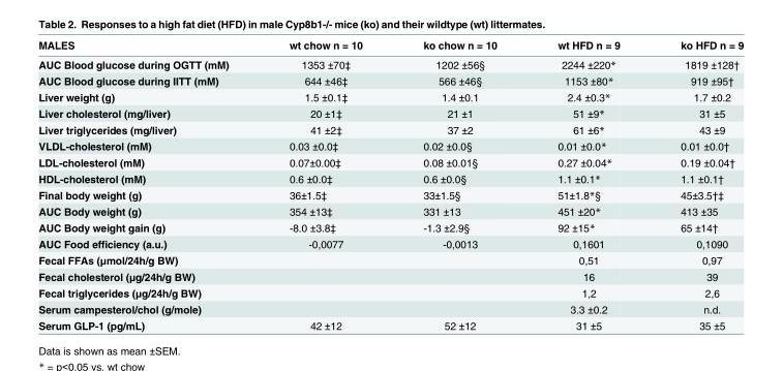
<table><thead><tr><td>MALES</td><td>wt chow n = 10</td><td>ko chow n = 10</td><td>wt HFD n = 9</td><td>ko HFD n = 9</td></tr></thead><tbody><tr><td>AUC Blood glucose during OGTT (mM)</td><td>1353 ±70‡</td><td>1202 ±56§</td><td>2244 ±220*</td><td>1819 ±128†</td></tr><tr><td>AUC Blood glucose during IITT (mM)</td><td>644 ±46‡</td><td>566 ±46§</td><td>1153 ±80*</td><td>919 ±95†</td></tr><tr><td>Liver weight (g)</td><td>1.5 ±0.1‡</td><td>1.4 ±0.1</td><td>2.4 ±0.3*</td><td>1.7 ±0.2</td></tr><tr><td>Liver cholesterol (mg/liver)</td><td>20 ±1‡</td><td>21 ±1</td><td>51 ±9*</td><td>31 ±5</td></tr><tr><td>Liver triglycerides (mg/liver)</td><td>41 ±2‡</td><td>37 ±2</td><td>61 ±6*</td><td>43 ±9</td></tr><tr><td>VLDL-cholesterol (mM)</td><td>0.03 ±0.0‡</td><td>0.02 ±0.0§</td><td>0.01 ±0.0*</td><td>0.01 ±0.0†</td></tr><tr><td>LDL-cholesterol (mM)</td><td>0.07±0.00‡</td><td>0.08 ±0.01§</td><td>0.27 ±0.04*</td><td>0.19 ±0.04†</td></tr><tr><td>HDL-cholesterol (mM)</td><td>0.6 ±0.0‡</td><td>0.6 ±0.0§</td><td>1.1 ±0.1*</td><td>1.1 ±0.1†</td></tr><tr><td>Final body weight (g)</td><td>36±1.5‡</td><td>33±1.5§</td><td>51±1.8*§</td><td>45±3.5†‡</td></tr><tr><td>AUC Body weight (g)</td><td>354 ±13‡</td><td>331 ±13</td><td>451 ±20*</td><td>413 ±35</td></tr><tr><td>AUC Body weight gain (g)</td><td>-8.0 ±3.8‡</td><td>-1.3 ±2.9§</td><td>92 ±15*</td><td>65 ±14†</td></tr><tr><td>AUC Food efficiency (a.u.)</td><td>-0,0077</td><td>-0,0013</td><td>0,1601</td><td>0,1090</td></tr><tr><td>Fecal FFAs (μmol/24h/g BW)</td><td></td><td></td><td>0,51</td><td>0,97</td></tr><tr><td>Fecal cholesterol (μg/24h/g BW)</td><td></td><td></td><td>16</td><td>39</td></tr><tr><td>Fecal triglycerides (μg/24h/g BW)</td><td></td><td></td><td>1,2</td><td>2,6</td></tr><tr><td>Serum campesterol/chol (g/mole)</td><td></td><td></td><td>3.3 ±0.2</td><td>n.d.</td></tr><tr><td>Serum GLP-1 (pg/mL)</td><td>42 ±12</td><td>52 ±12</td><td>31 ±5</td><td>35 ±5</td></tr></tbody></table>